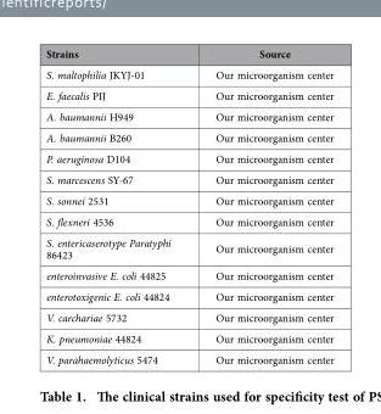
<table><thead><tr><td>Strains</td><td>Source</td></tr></thead><tbody><tr><td>S. maltophilia JKYJ-01</td><td>Our microorganism center</td></tr><tr><td>E. faecalis PIJ</td><td>Our microorganism center</td></tr><tr><td>A. baumannii H949</td><td>Our microorganism center</td></tr><tr><td>A. baumannii B260</td><td>Our microorganism center</td></tr><tr><td>P. aeruginosa D104</td><td>Our microorganism center</td></tr><tr><td>S. marcescens SY-67</td><td>Our microorganism center</td></tr><tr><td>S. sonnei 2531</td><td>Our microorganism center</td></tr><tr><td>S. flexneri 4536</td><td>Our microorganism center</td></tr><tr><td>S. entericaserotype Paratyphi 86423</td><td>Our microorganism center</td></tr><tr><td>enteroinvasive E. coli 44825</td><td>Our microorganism center</td></tr><tr><td>enterotoxigenic E. coli 44824</td><td>Our microorganism center</td></tr><tr><td>V. carchariae 5732</td><td>Our microorganism center</td></tr><tr><td>K. pneumoniae 44824</td><td>Our microorganism center</td></tr><tr><td>V. parahaemolyticus 5474</td><td>Our microorganism center</td></tr></tbody></table>